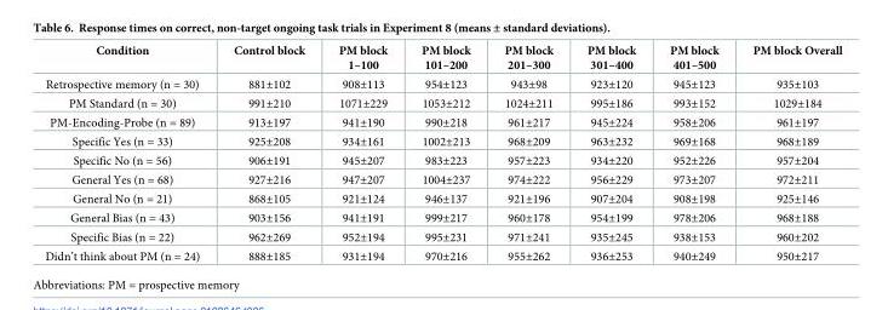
<table><thead><tr><td>Condition</td><td>Control block</td><td>PM block 1–100</td><td>PM block 101–200</td><td>PM block 201–300</td><td>PM block 301–400</td><td>PM block 401–500</td><td>PM block Overall</td></tr></thead><tbody><tr><td>Retrospective memory (n = 30)</td><td>881±102</td><td>908±113</td><td>954±123</td><td>943±98</td><td>923±120</td><td>945±123</td><td>935±103</td></tr><tr><td>PM Standard (n = 30)</td><td>991±210</td><td>1071±229</td><td>1053±212</td><td>1024±211</td><td>995±186</td><td>993±152</td><td>1029±184</td></tr><tr><td>PM-Encoding-Probe (n = 89)</td><td>913±197</td><td>941±190</td><td>990±218</td><td>961±217</td><td>945±224</td><td>958±206</td><td>961±197</td></tr><tr><td>Specific Yes (n = 33)</td><td>925±208</td><td>934±161</td><td>1002±213</td><td>968±209</td><td>963±232</td><td>969±168</td><td>968±189</td></tr><tr><td>Specific No (n = 56)</td><td>906±191</td><td>945±207</td><td>983±223</td><td>957±223</td><td>934±220</td><td>952±226</td><td>957±204</td></tr><tr><td>General Yes (n = 68)</td><td>927±216</td><td>947±207</td><td>1004±237</td><td>974±222</td><td>956±229</td><td>973±207</td><td>972±211</td></tr><tr><td>General No (n = 21)</td><td>868±105</td><td>921±124</td><td>946±137</td><td>921±196</td><td>907±204</td><td>908±198</td><td>925±146</td></tr><tr><td>General Bias (n = 43)</td><td>903±156</td><td>941±191</td><td>999±217</td><td>960±178</td><td>954±199</td><td>978±206</td><td>968±188</td></tr><tr><td>Specific Bias (n = 22)</td><td>962±269</td><td>952±194</td><td>995±231</td><td>971±241</td><td>935±245</td><td>938±153</td><td>960±202</td></tr><tr><td>Didn’t think about PM (n = 24)</td><td>888±185</td><td>931±194</td><td>970±216</td><td>955±262</td><td>936±253</td><td>940±249</td><td>950±217</td></tr></tbody></table>